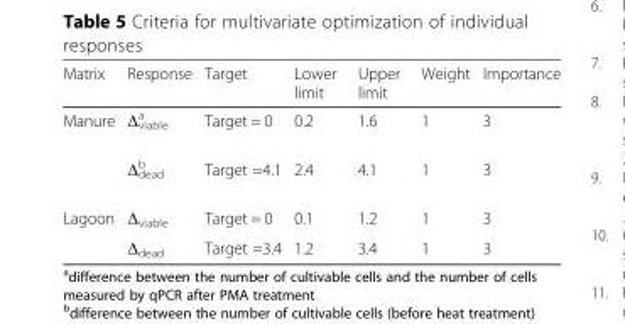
<table><thead><tr><td>Matrix</td><td>Response</td><td>Target</td><td>Lower limit</td><td>Upper limit</td><td>Weight</td><td>Importance</td></tr></thead><tbody><tr><td rowspan="2">Manure</td><td>Δ<sub>viable</sub> <sup>a</sup></td><td>Target = 0</td><td>0.2</td><td>1.6</td><td>1</td><td>3</td></tr><tr><td>Δ<sub>dead</sub> <sup>b</sup></td><td>Target =4.1</td><td>2.4</td><td>4.1</td><td>1</td><td>3</td></tr><tr><td rowspan="2">Lagoon</td><td>Δ<sub>viable</sub></td><td>Target = 0</td><td>0.1</td><td>1.2</td><td>1</td><td>3</td></tr><tr><td>Δ<sub>dead</sub></td><td>Target =3.4</td><td>1.2</td><td>3.4</td><td>1</td><td>3</td></tr></tbody></table>